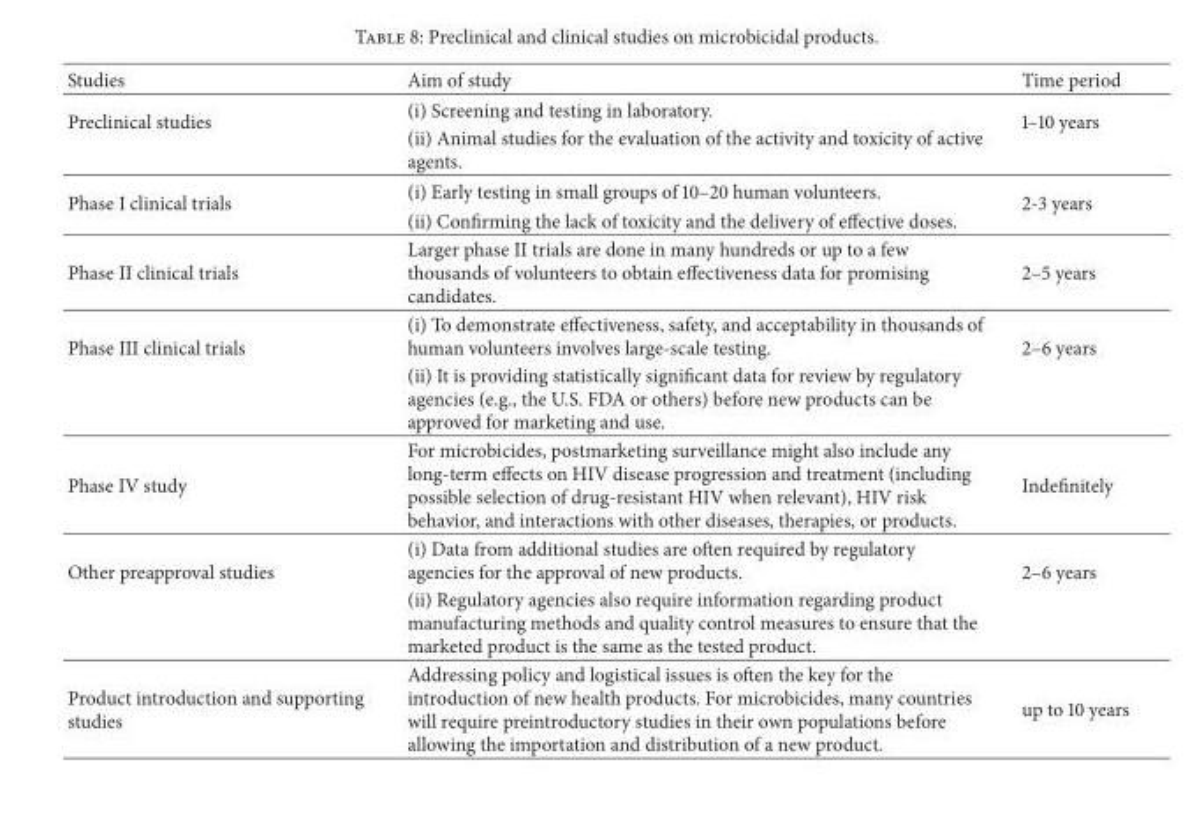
<table><thead><tr><td>Studies</td><td>Aim of study</td><td>Time period</td></tr></thead><tbody><tr><td rowspan="2">Preclinical studies</td><td>(i) Screening and testing in laboratory.</td><td rowspan="2">1–10 years</td></tr><tr><td>(ii) Animal studies for the evaluation of the activity and toxicity of active agents.</td></tr><tr><td rowspan="2">Phase I clinical trials</td><td>(i) Early testing in small groups of 10–20 human volunteers.</td><td rowspan="2">2-3 years</td></tr><tr><td>(ii) Confirming the lack of toxicity and the delivery of effective doses.</td></tr><tr><td>Phase II clinical trials</td><td>Larger phase II trials are done in many hundreds or up to a few thousands of volunteers to obtain effectiveness data for promising candidates.</td><td>2–5 years</td></tr><tr><td rowspan="2">Phase III clinical trials</td><td>(i) To demonstrate effectiveness, safety, and acceptability in thousands of human volunteers involves large-scale testing.</td><td rowspan="2">2–6 years</td></tr><tr><td>(ii) It is providing statistically significant data for review by regulatory agencies (e.g., the U.S. FDA or others) before new products can be approved for marketing and use.</td></tr><tr><td>Phase IV study</td><td>For microbicides, postmarketing surveillance might also include any long-term effects on HIV disease progression and treatment (including possible selection of drug-resistant HIV when relevant), HIV risk behavior, and interactions with other diseases, therapies, or products.</td><td>Indefinitely</td></tr><tr><td rowspan="2">Other preapproval studies</td><td>(i) Data from additional studies are often required by regulatory agencies for the approval of new products.</td><td rowspan="2">2–6 years</td></tr><tr><td>(ii) Regulatory agencies also require information regarding product manufacturing methods and quality control measures to ensure that the marketed product is the same as the tested product.</td></tr><tr><td>Product introduction and supporting studies</td><td>Addressing policy and logistical issues is often the key for the introduction of new health products. For microbicides, many countries will require preintroductory studies in their own populations before allowing the importation and distribution of a new product.</td><td>up to 10 years</td></tr></tbody></table>